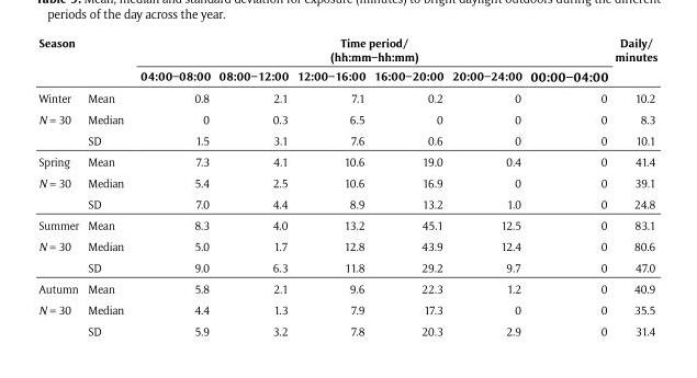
<table><thead><tr><td rowspan="2">Season</td><td rowspan="2"></td><td colspan="6">Time period/ (hh:mm–hh:mm)</td><td rowspan="2">Daily/ minutes</td></tr><tr><td>04:00–08:00</td><td>08:00–12:00</td><td>12:00–16:00</td><td>16:00–20:00</td><td>20:00–24:00</td><td>00:00–04:00</td></tr></thead><tbody><tr><td>Winter</td><td>Mean</td><td>0.8</td><td>2.1</td><td>7.1</td><td>0.2</td><td>0</td><td>0</td><td>10.2</td></tr><tr><td rowspan="2">N = 30</td><td>Median</td><td>0</td><td>0.3</td><td>6.5</td><td>0</td><td>0</td><td>0</td><td>8.3</td></tr><tr><td>SD</td><td>1.5</td><td>3.1</td><td>7.6</td><td>0.6</td><td>0</td><td>0</td><td>10.1</td></tr><tr><td>Spring</td><td>Mean</td><td>7.3</td><td>4.1</td><td>10.6</td><td>19.0</td><td>0.4</td><td>0</td><td>41.4</td></tr><tr><td rowspan="2">N = 30</td><td>Median</td><td>5.4</td><td>2.5</td><td>10.6</td><td>16.9</td><td>0</td><td>0</td><td>39.1</td></tr><tr><td>SD</td><td>7.0</td><td>4.4</td><td>8.9</td><td>13.2</td><td>1.0</td><td>0</td><td>24.8</td></tr><tr><td>Summer</td><td>Mean</td><td>8.3</td><td>4.0</td><td>13.2</td><td>45.1</td><td>12.5</td><td>0</td><td>83.1</td></tr><tr><td rowspan="2">N = 30</td><td>Median</td><td>5.0</td><td>1.7</td><td>12.8</td><td>43.9</td><td>12.4</td><td>0</td><td>80.6</td></tr><tr><td>SD</td><td>9.0</td><td>6.3</td><td>11.8</td><td>29.2</td><td>9.7</td><td>0</td><td>47.0</td></tr><tr><td>Autumn</td><td>Mean</td><td>5.8</td><td>2.1</td><td>9.6</td><td>22.3</td><td>1.2</td><td>0</td><td>40.9</td></tr><tr><td rowspan="2">N = 30</td><td>Median</td><td>4.4</td><td>1.3</td><td>7.9</td><td>17.3</td><td>0</td><td>0</td><td>35.5</td></tr><tr><td>SD</td><td>5.9</td><td>3.2</td><td>7.8</td><td>20.3</td><td>2.9</td><td>0</td><td>31.4</td></tr></tbody></table>